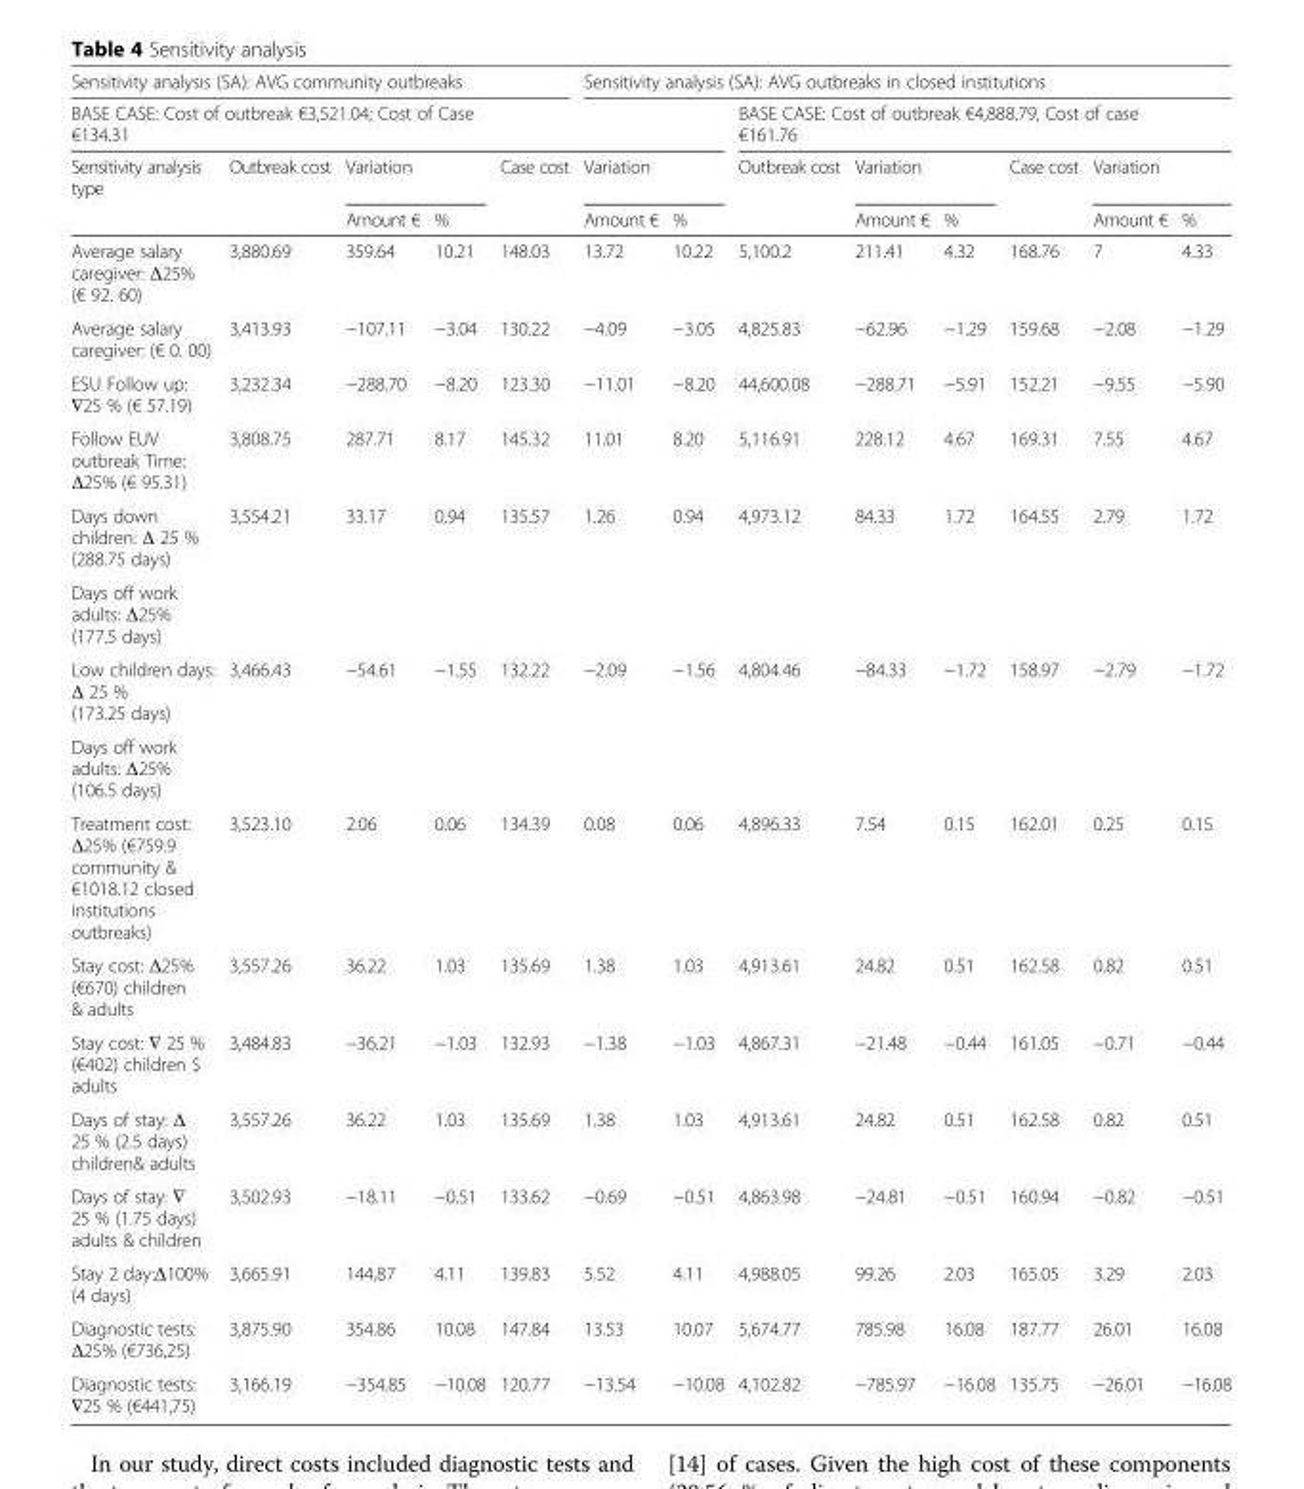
<table><thead><tr><td colspan="5">Sensitivity analysis (SA): AVG community outbreaks</td><td colspan="8">Sensitivity analysis (SA): AVG outbreaks in closed institutions</td></tr><tr><td colspan="7">BASE CASE: Cost of outbreak €3,521.04; Cost of Case €134.31</td><td colspan="6">BASE CASE: Cost of outbreak €4,888.79, Cost of case €161.76</td></tr><tr><td rowspan="2">Sensitivity analysis type</td><td rowspan="2">Outbreak cost</td><td colspan="2">Variation</td><td rowspan="2">Case cost</td><td colspan="2">Variation</td><td rowspan="2">Outbreak cost</td><td colspan="2">Variation</td><td rowspan="2">Case cost</td><td colspan="2">Variation</td></tr><tr><td>Amount €</td><td>%</td><td>Amount €</td><td>%</td><td>Amount €</td><td>%</td><td>Amount €</td><td>%</td></tr></thead><tbody><tr><td>Average salary caregiver: Δ25% (€ 92. 60)</td><td>3,880.69</td><td>359.64</td><td>10.21</td><td>148.03</td><td>13.72</td><td>10.22</td><td>5,100.2</td><td>211.41</td><td>4.32</td><td>168.76</td><td>7</td><td>4.33</td></tr><tr><td>Average salary caregiver: (€ 0. 00)</td><td>3,413.93</td><td>−107.11</td><td>−3.04</td><td>130.22</td><td>−4.09</td><td>−3.05</td><td>4,825.83</td><td>−62.96</td><td>−1.29</td><td>159.68</td><td>−2.08</td><td>−1.29</td></tr><tr><td>ESU Follow up: ∇25 % (€ 57.19)</td><td>3,232.34</td><td>−288.70</td><td>−8.20</td><td>123.30</td><td>−11.01</td><td>−8.20</td><td>44,600.08</td><td>−288.71</td><td>−5.91</td><td>152.21</td><td>−9.55</td><td>−5.90</td></tr><tr><td>Follow EUV outbreak Time: Δ25% (€ 95.31)</td><td>3,808.75</td><td>287.71</td><td>8.17</td><td>145.32</td><td>11.01</td><td>8.20</td><td>5,116.91</td><td>228.12</td><td>4.67</td><td>169.31</td><td>7.55</td><td>4.67</td></tr><tr><td>Days down children: Δ 25 % (288.75 days)</td><td rowspan="2">3,554.21</td><td rowspan="2">33.17</td><td rowspan="2">0.94</td><td rowspan="2">135.57</td><td rowspan="2">1.26</td><td rowspan="2">0.94</td><td rowspan="2">4,973.12</td><td rowspan="2">84.33</td><td rowspan="2">1.72</td><td rowspan="2">164.55</td><td rowspan="2">2.79</td><td rowspan="2">1.72</td></tr><tr><td>Days off work adults: Δ25% (177.5 days)</td></tr><tr><td>Low children days: Δ 25 % (173.25 days)</td><td rowspan="2">3,466.43</td><td rowspan="2">−54.61</td><td rowspan="2">−1.55</td><td rowspan="2">132.22</td><td rowspan="2">−2.09</td><td rowspan="2">−1.56</td><td rowspan="2">4,804.46</td><td rowspan="2">−84.33</td><td rowspan="2">−1.72</td><td rowspan="2">158.97</td><td rowspan="2">−2.79</td><td rowspan="2">−1.72</td></tr><tr><td>Days off work adults: Δ25% (106.5 days)</td></tr><tr><td>Treatment cost: Δ25% (€759.9 community &amp; €1018.12 closed institutions outbreaks)</td><td>3,523.10</td><td>2.06</td><td>0.06</td><td>134.39</td><td>0.08</td><td>0.06</td><td>4,896.33</td><td>7.54</td><td>0.15</td><td>162.01</td><td>0.25</td><td>0.15</td></tr><tr><td>Stay cost: Δ25% (€670) children &amp; adults</td><td>3,557.26</td><td>36.22</td><td>1.03</td><td>135.69</td><td>1.38</td><td>1.03</td><td>4,913.61</td><td>24.82</td><td>0.51</td><td>162.58</td><td>0.82</td><td>0.51</td></tr><tr><td>Stay cost: ∇ 25 % (€402) children $ adults</td><td>3,484.83</td><td>−36.21</td><td>−1.03</td><td>132.93</td><td>−1.38</td><td>−1.03</td><td>4,867.31</td><td>−21.48</td><td>−0.44</td><td>161.05</td><td>−0.71</td><td>−0.44</td></tr><tr><td>Days of stay: Δ 25 % (2.5 days) children&amp; adults</td><td>3,557.26</td><td>36.22</td><td>1.03</td><td>135.69</td><td>1.38</td><td>1.03</td><td>4,913.61</td><td>24.82</td><td>0.51</td><td>162.58</td><td>0.82</td><td>0.51</td></tr><tr><td>Days of stay: ∇ 25 % (1.75 days) adults &amp; children</td><td>3,502.93</td><td>−18.11</td><td>−0.51</td><td>133.62</td><td>−0.69</td><td>−0.51</td><td>4,863.98</td><td>−24.81</td><td>−0.51</td><td>160.94</td><td>−0.82</td><td>−0.51</td></tr><tr><td>Stay 2 day:Δ100% (4 days)</td><td>3,665.91</td><td>144,87</td><td>4.11</td><td>139.83</td><td>5.52</td><td>4.11</td><td>4,988.05</td><td>99.26</td><td>2.03</td><td>165.05</td><td>3.29</td><td>2.03</td></tr><tr><td>Diagnostic tests: Δ25% (€736,25)</td><td>3,875.90</td><td>354.86</td><td>10.08</td><td>147.84</td><td>13.53</td><td>10.07</td><td>5,674.77</td><td>785.98</td><td>16.08</td><td>187.77</td><td>26.01</td><td>16.08</td></tr><tr><td>Diagnostic tests: ∇25 % (€441,75)</td><td>3,166.19</td><td>−354.85</td><td>−10.08</td><td>120.77</td><td>−13.54</td><td>−10.08</td><td>4,102.82</td><td>−785.97</td><td>−16.08</td><td>135.75</td><td>−26.01</td><td>−16.08</td></tr></tbody></table>